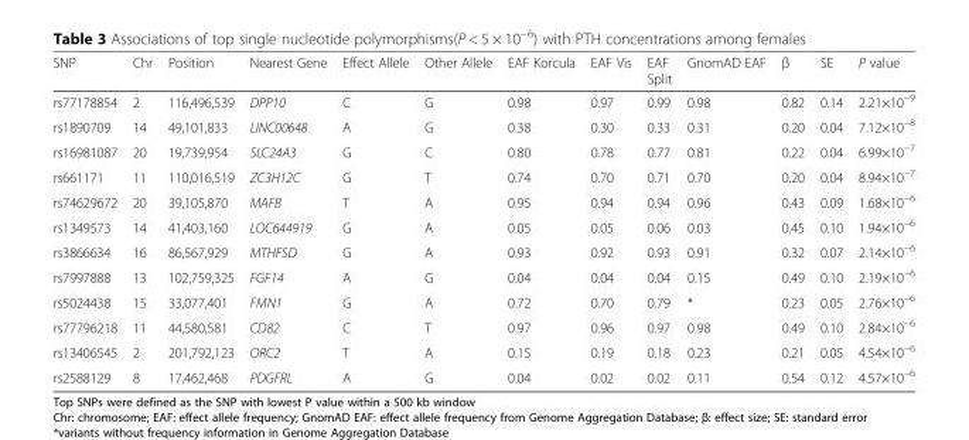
<table><thead><tr><td>SNP</td><td>Chr</td><td>Position</td><td>Nearest Gene</td><td>Effect Allele</td><td>Other Allele</td><td>EAF Korcula</td><td>EAF Vis</td><td>EAF Split</td><td>GnomAD EAF</td><td>β</td><td>SE</td><td>P value</td></tr></thead><tbody><tr><td>rs77178854</td><td>2</td><td>116,496,539</td><td>DPP10</td><td>C</td><td>G</td><td>0.98</td><td>0.97</td><td>0.99</td><td>0.98</td><td>0.82</td><td>0.14</td><td>2.21×10<sup>−9</sup></td></tr><tr><td>rs1890709</td><td>14</td><td>49,101,833</td><td>LINC00648</td><td>A</td><td>G</td><td>0.38</td><td>0.30</td><td>0.33</td><td>0.31</td><td>0.20</td><td>0.04</td><td>7.12×10<sup>−8</sup></td></tr><tr><td>rs16981087</td><td>20</td><td>19,739,954</td><td>SLC24A3</td><td>G</td><td>C</td><td>0.80</td><td>0.78</td><td>0.77</td><td>0.81</td><td>0.22</td><td>0.04</td><td>6.99×10<sup>−7</sup></td></tr><tr><td>rs661171</td><td>11</td><td>110,016,519</td><td>ZC3H12C</td><td>G</td><td>T</td><td>0.74</td><td>0.70</td><td>0.71</td><td>0.70</td><td>0.20</td><td>0.04</td><td>8.94×10<sup>−7</sup></td></tr><tr><td>rs74629672</td><td>20</td><td>39,105,870</td><td>MAFB</td><td>T</td><td>A</td><td>0.95</td><td>0.94</td><td>0.94</td><td>0.96</td><td>0.43</td><td>0.09</td><td>1.68×10<sup>−6</sup></td></tr><tr><td>rs1349573</td><td>14</td><td>41,403,160</td><td>LOC644919</td><td>G</td><td>A</td><td>0.05</td><td>0.05</td><td>0.06</td><td>0.03</td><td>0.45</td><td>0.10</td><td>1.94×10<sup>−6</sup></td></tr><tr><td>rs3866634</td><td>16</td><td>86,567,929</td><td>MTHFSD</td><td>G</td><td>A</td><td>0.93</td><td>0.92</td><td>0.93</td><td>0.91</td><td>0.32</td><td>0.07</td><td>2.14×10<sup>−6</sup></td></tr><tr><td>rs7997888</td><td>13</td><td>102,759,325</td><td>FGF14</td><td>A</td><td>G</td><td>0.04</td><td>0.04</td><td>0.04</td><td>0.15</td><td>0.49</td><td>0.10</td><td>2.19×10<sup>−6</sup></td></tr><tr><td>rs5024438</td><td>15</td><td>33,077,401</td><td>FMN1</td><td>G</td><td>A</td><td>0.72</td><td>0.70</td><td>0.79</td><td>*</td><td>0.23</td><td>0.05</td><td>2.76×10<sup>−6</sup></td></tr><tr><td>rs77796218</td><td>11</td><td>44,580,581</td><td>CD82</td><td>C</td><td>T</td><td>0.97</td><td>0.96</td><td>0.97</td><td>0.98</td><td>0.49</td><td>0.10</td><td>2.84×10<sup>−6</sup></td></tr><tr><td>rs13406545</td><td>2</td><td>201,792,123</td><td>ORC2</td><td>T</td><td>A</td><td>0.15</td><td>0.19</td><td>0.18</td><td>0.23</td><td>0.21</td><td>0.05</td><td>4.54×10<sup>−6</sup></td></tr><tr><td>rs2588129</td><td>8</td><td>17,462,468</td><td>PDGFRL</td><td>A</td><td>G</td><td>0.04</td><td>0.02</td><td>0.02</td><td>0.11</td><td>0.54</td><td>0.12</td><td>4.57×10<sup>−6</sup></td></tr></tbody></table>